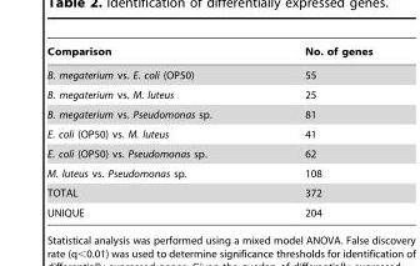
<table><thead><tr><td>Comparison</td><td>No. of genes</td></tr></thead><tbody><tr><td>B. megaterium vs. E. coli (OP50)</td><td>55</td></tr><tr><td>B. megaterium vs. M. luteus</td><td>25</td></tr><tr><td>B. megaterium vs. Pseudomonas sp.</td><td>81</td></tr><tr><td>E. coli (OP50) vs. M. luteus</td><td>41</td></tr><tr><td>E. coli (OP50) vs. Pseudomonas sp.</td><td>62</td></tr><tr><td>M. luteus vs. Pseudomonas sp.</td><td>108</td></tr><tr><td>TOTAL</td><td>372</td></tr><tr><td>UNIQUE</td><td>204</td></tr></tbody></table>